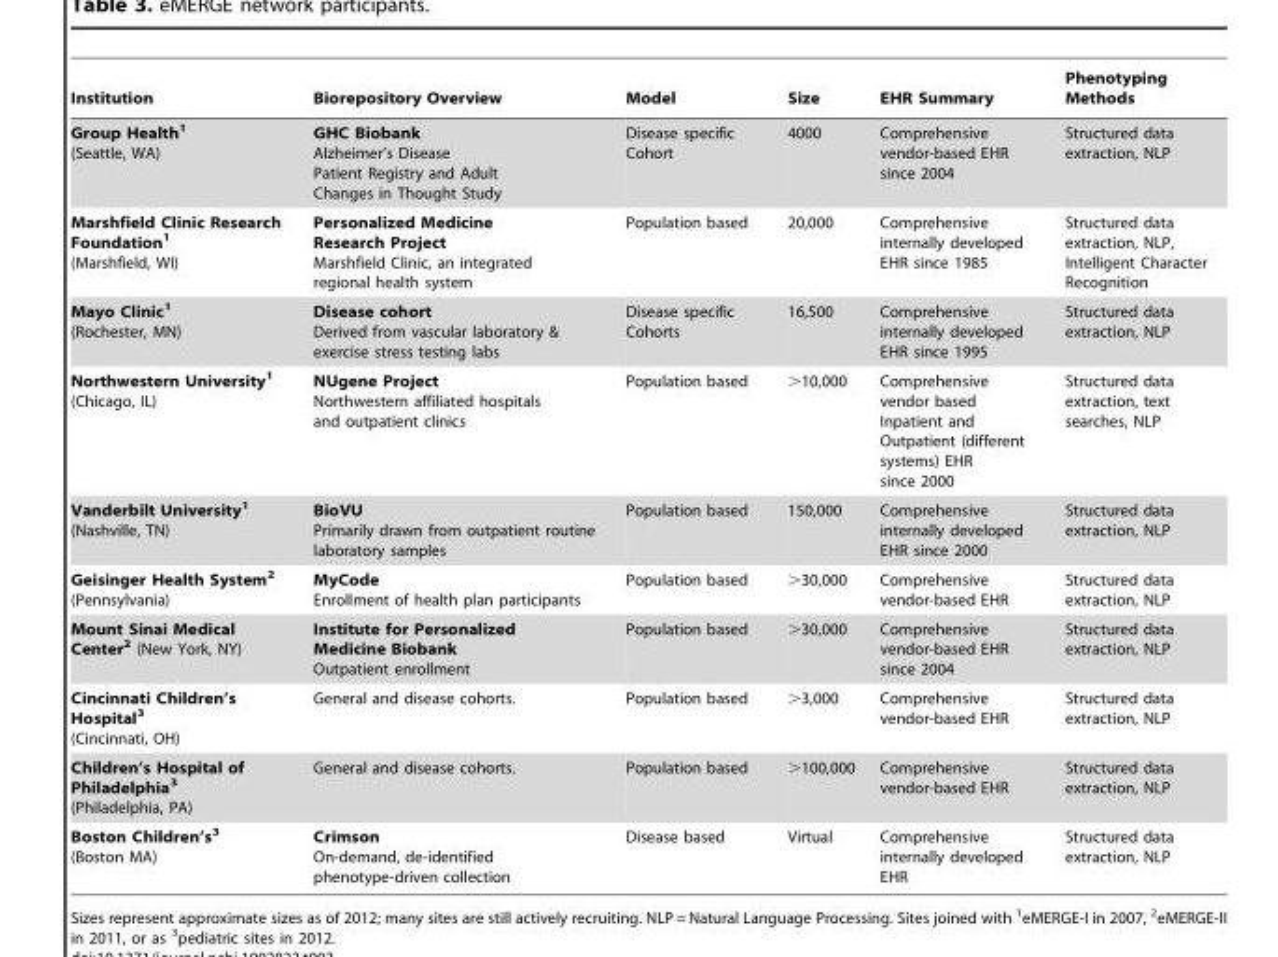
<table><thead><tr><td>Institution</td><td>Biorepository Overview</td><td>Model</td><td>Size</td><td>EHR Summary</td><td>Phenotyping Methods</td></tr></thead><tbody><tr><td>Group Health1 (Seattle, WA)</td><td>GHC Biobank Alzheimer’s Disease Patient Registry and Adult Changes in Thought Study</td><td>Disease specific Cohort</td><td>4000</td><td>Comprehensive vendor-based EHR since 2004</td><td>Structured data extraction, NLP</td></tr><tr><td>Marshfield Clinic Research Foundation1 (Marshfield, WI)</td><td>Personalized Medicine Research Project Marshfield Clinic, an integrated regional health system</td><td>Population based</td><td>20,000</td><td>Comprehensive internally developed EHR since 1985</td><td>Structured data extraction, NLP, Intelligent Character Recognition</td></tr><tr><td>Mayo Clinic1 (Rochester, MN)</td><td>Disease cohort Derived from vascular laboratory &amp; exercise stress testing labs</td><td>Disease specific Cohorts</td><td>16,500</td><td>Comprehensive internally developed EHR since 1995</td><td>Structured data extraction, NLP</td></tr><tr><td>Northwestern University1 (Chicago, IL)</td><td>NUgene Project Northwestern affiliated hospitals and outpatient clinics</td><td>Population based</td><td>&gt;10,000</td><td>Comprehensive vendor based Inpatient and Outpatient (different systems) EHR since 2000</td><td>Structured data extraction, text searches, NLP</td></tr><tr><td>Vanderbilt University1 (Nashville, TN)</td><td>BioVU Primarily drawn from outpatient routine laboratory samples</td><td>Population based</td><td>150,000</td><td>Comprehensive internally developed EHR since 2000</td><td>Structured data extraction, NLP</td></tr><tr><td>Geisinger Health System2 (Pennsylvania)</td><td>MyCode Enrollment of health plan participants</td><td>Population based</td><td>&gt;30,000</td><td>Comprehensive vendor-based EHR</td><td>Structured data extraction, NLP</td></tr><tr><td>Mount Sinai Medical Center2 (New York, NY)</td><td>Institute for Personalized Medicine Biobank Outpatient enrollment</td><td>Population based</td><td>&gt;30,000</td><td>Comprehensive vendor-based EHR since 2004</td><td>Structured data extraction, NLP</td></tr><tr><td>Cincinnati Children’s Hospital3 (Cincinnati, OH)</td><td>General and disease cohorts.</td><td>Population based</td><td>&gt;3,000</td><td>Comprehensive vendor-based EHR</td><td>Structured data extraction, NLP</td></tr><tr><td>Children’s Hospital of Philadelphia3 (Philadelphia, PA)</td><td>General and disease cohorts.</td><td>Population based</td><td>&gt;100,000</td><td>Comprehensive vendor-based EHR</td><td>Structured data extraction, NLP</td></tr><tr><td>Boston Children’s3 (Boston MA)</td><td>Crimson On-demand, de-identified phenotype-driven collection</td><td>Disease based</td><td>Virtual</td><td>Comprehensive internally developed EHR</td><td>Structured data extraction, NLP</td></tr></tbody></table>